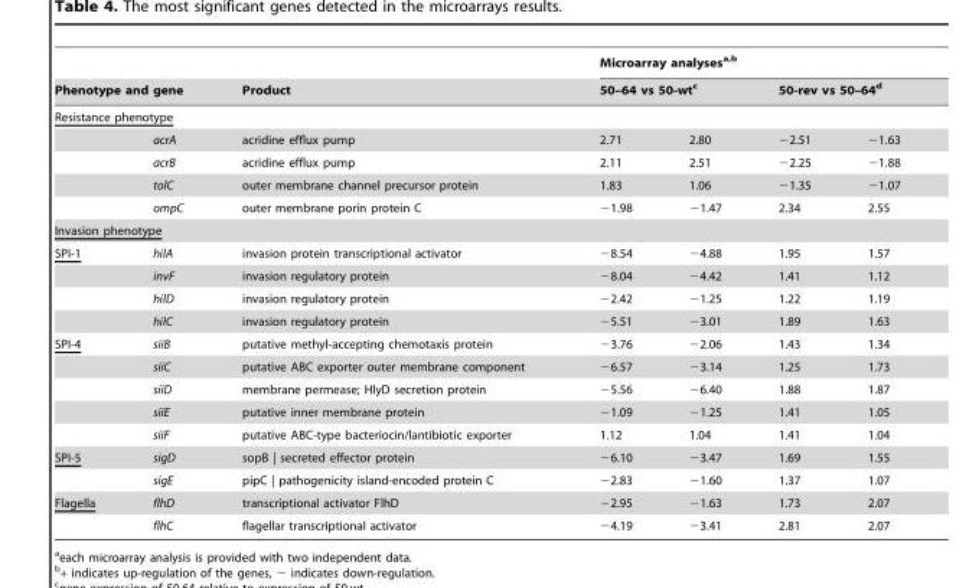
<table><thead><tr><td></td><td></td><td rowspan="2">Product</td><td colspan="4">Microarray analysesa,b</td></tr><tr><td colspan="2">Phenotype and gene</td><td colspan="2">50–64 vs 50-wt<sup>c</sup></td><td colspan="2">50-rev vs 50–64<sup>d</sup></td></tr><tr><td colspan="7">Resistance phenotype</td></tr><tr><td></td><td>acrA</td><td>acridine efflux pump</td><td>2.71</td><td>2.80</td><td>−2.51</td><td>−1.63</td></tr></thead><tbody><tr><td></td><td>acrB</td><td>acridine efflux pump</td><td>2.11</td><td>2.51</td><td>−2.25</td><td>−1.88</td></tr><tr><td></td><td>tolC</td><td>outer membrane channel precursor protein</td><td>1.83</td><td>1.06</td><td>−1.35</td><td>−1.07</td></tr><tr><td></td><td>ompC</td><td>outer membrane porin protein C</td><td>−1.98</td><td>−1.47</td><td>2.34</td><td>2.55</td></tr><tr><td colspan="7">Invasion phenotype</td></tr><tr><td rowspan="4">SPI-1</td><td>hilA</td><td>invasion protein transcriptional activator</td><td>−8.54</td><td>−4.88</td><td>1.95</td><td>1.57</td></tr><tr><td>invF</td><td>invasion regulatory protein</td><td>−8.04</td><td>−4.42</td><td>1.41</td><td>1.12</td></tr><tr><td>hilD</td><td>invasion regulatory protein</td><td>−2.42</td><td>−1.25</td><td>1.22</td><td>1.19</td></tr><tr><td>hilC</td><td>invasion regulatory protein</td><td>−5.51</td><td>−3.01</td><td>1.89</td><td>1.63</td></tr><tr><td rowspan="5">SPI-4</td><td>siiB</td><td>putative methyl-accepting chemotaxis protein</td><td>−3.76</td><td>−2.06</td><td>1.43</td><td>1.34</td></tr><tr><td>siiC</td><td>putative ABC exporter outer membrane component</td><td>−6.57</td><td>−3.14</td><td>1.25</td><td>1.73</td></tr><tr><td>siiD</td><td>membrane permease; HlyD secretion protein</td><td>−5.56</td><td>−6.40</td><td>1.88</td><td>1.87</td></tr><tr><td>siiE</td><td>putative inner membrane protein</td><td>−1.09</td><td>−1.25</td><td>1.41</td><td>1.05</td></tr><tr><td>siiF</td><td>putative ABC-type bacteriocin/lantibiotic exporter</td><td>1.12</td><td>1.04</td><td>1.41</td><td>1.04</td></tr><tr><td rowspan="2">SPI-5</td><td>sigD</td><td>sopB | secreted effector protein</td><td>−6.10</td><td>−3.47</td><td>1.69</td><td>1.55</td></tr><tr><td>sigE</td><td>pipC | pathogenicity island-encoded protein C</td><td>−2.83</td><td>−1.60</td><td>1.37</td><td>1.07</td></tr><tr><td rowspan="2">Flagella</td><td>flhD</td><td>transcriptional activator FlhD</td><td>−2.95</td><td>−1.63</td><td>1.73</td><td>2.07</td></tr><tr><td>flhC</td><td>flagellar transcriptional activator</td><td>−4.19</td><td>−3.41</td><td>2.81</td><td>2.07</td></tr></tbody></table>